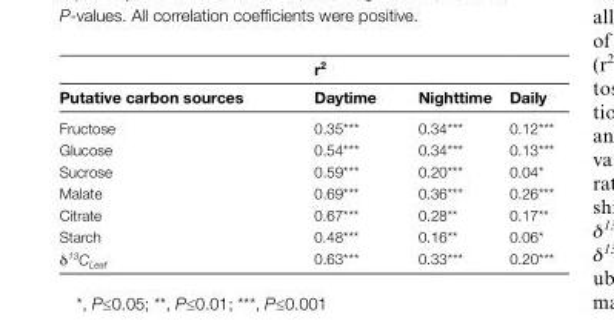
<table><thead><tr><td rowspan="2">Putative carbon sources</td><td colspan="3">r<sup>2</sup></td></tr><tr><td>Daytime</td><td>Nighttime</td><td>Daily</td></tr></thead><tbody><tr><td>Fructose</td><td>0.35***</td><td>0.34***</td><td>0.12***</td></tr><tr><td>Glucose</td><td>0.54***</td><td>0.34***</td><td>0.13***</td></tr><tr><td>Sucrose</td><td>0.59***</td><td>0.20***</td><td>0.04*</td></tr><tr><td>Malate</td><td>0.69***</td><td>0.36***</td><td>0.26***</td></tr><tr><td>Citrate</td><td>0.67***</td><td>0.28**</td><td>0.17**</td></tr><tr><td>Starch</td><td>0.48***</td><td>0.16**</td><td>0.06*</td></tr><tr><td>δ<sup>13</sup>C<sub>Leaf</sub></td><td>0.63***</td><td>0.33***</td><td>0.20***</td></tr></tbody></table>